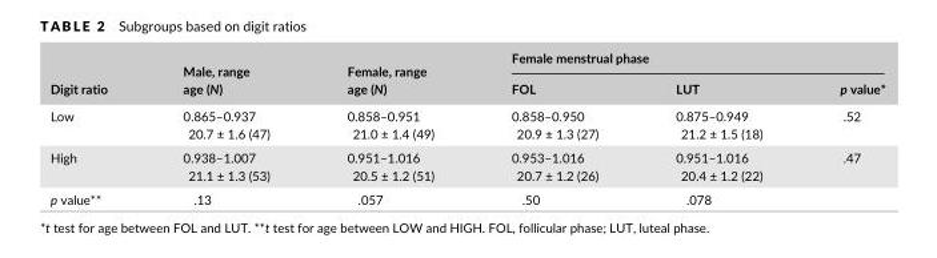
<table><thead><tr><td rowspan="2">Digit ratio</td><td rowspan="2">Male, range age (N)</td><td rowspan="2">Female, range age (N)</td><td colspan="3">Female menstrual phase</td></tr><tr><td>FOL</td><td>LUT</td><td>p value*</td></tr></thead><tbody><tr><td>Low</td><td>0.865–0.937 20.7 ± 1.6 (47)</td><td>0.858–0.951 21.0 ± 1.4 (49)</td><td>0.858–0.950 20.9 ± 1.3 (27)</td><td>0.875–0.949 21.2 ± 1.5 (18)</td><td>.52</td></tr><tr><td>High</td><td>0.938–1.007 21.1 ± 1.3 (53)</td><td>0.951–1.016 20.5 ± 1.2 (51)</td><td>0.953–1.016 20.7 ± 1.2 (26)</td><td>0.951–1.016 20.4 ± 1.2 (22)</td><td>.47</td></tr><tr><td>p value**</td><td>.13</td><td>.057</td><td>.50</td><td>.078</td><td></td></tr></tbody></table>